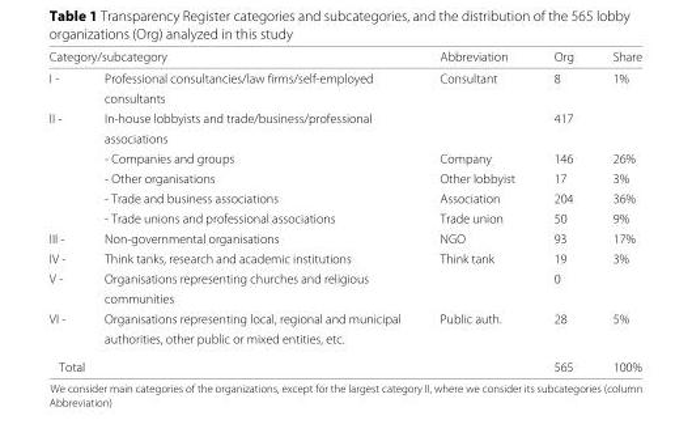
<table><thead><tr><td colspan="2">Category/subcategory</td><td rowspan="2">Abbreviation Consultant</td><td rowspan="2">Org 8</td><td rowspan="2">Share 1%</td></tr><tr><td>I -</td><td>Professional consultancies/law firms/self-employed</td></tr></thead><tbody><tr><td></td><td>consultants</td><td></td><td></td><td></td></tr><tr><td rowspan="6">II -</td><td>In-house lobbyists and trade/business/professional</td><td></td><td>417</td><td></td></tr><tr><td>associations</td><td></td><td></td><td></td></tr><tr><td>- Companies and groups</td><td>Company</td><td>146</td><td>26%</td></tr><tr><td>- Other organisations</td><td>Other lobbyist</td><td>17</td><td>3%</td></tr><tr><td>- Trade and business associations</td><td>Association</td><td>204</td><td>36%</td></tr><tr><td>- Trade unions and professional associations</td><td>Trade union</td><td>50</td><td>9%</td></tr><tr><td>III -</td><td>Non-governmental organisations</td><td>NGO</td><td>93</td><td>17%</td></tr><tr><td>IV -</td><td>Think tanks, research and academic institutions</td><td>Think tank</td><td>19</td><td>3%</td></tr><tr><td rowspan="2">V -</td><td>Organisations representing churches and religious</td><td></td><td>0</td><td></td></tr><tr><td>communities</td><td></td><td></td><td></td></tr><tr><td rowspan="2">VI -</td><td>Organisations representing local, regional and municipal</td><td>Public auth.</td><td>28</td><td>5%</td></tr><tr><td>authorities, other public or mixed entities, etc.</td><td></td><td></td><td></td></tr><tr><td colspan="2">Total</td><td></td><td>565</td><td>100%</td></tr></tbody></table>